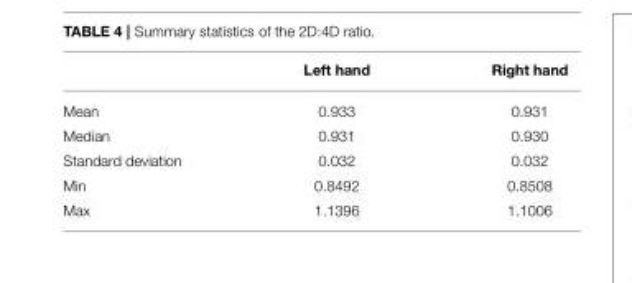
<table><thead><tr><td></td><td>Left hand</td><td>Right hand</td></tr></thead><tbody><tr><td>Mean</td><td>0.933</td><td>0.931</td></tr><tr><td>Median</td><td>0.931</td><td>0.930</td></tr><tr><td>Standard deviation</td><td>0.032</td><td>0.032</td></tr><tr><td>Min</td><td>0.8492</td><td>0.8508</td></tr><tr><td>Max</td><td>1.1396</td><td>1.1006</td></tr></tbody></table>